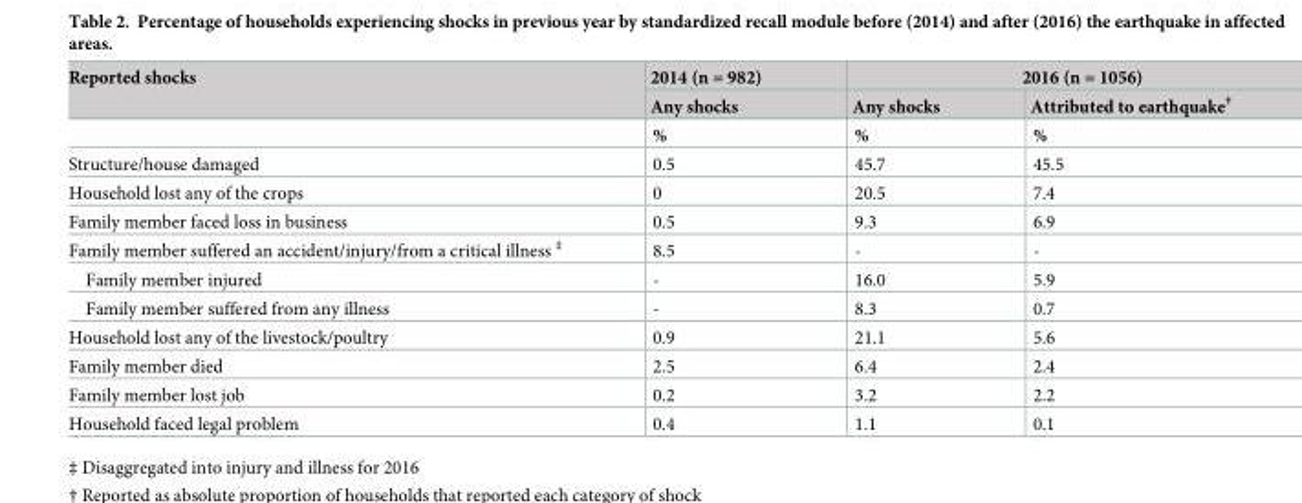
<table><thead><tr><td rowspan="3">Reported shocks</td><td rowspan="3">2014 (n = 982) Any shocks %</td><td colspan="2">2016 (n = 1056)</td></tr><tr><td rowspan="2">Any shocks %</td><td rowspan="2">Attributed to earthquake<sup>†</sup> %</td></tr><tr></tr></thead><tbody><tr><td>Structure/house damaged</td><td>0.5</td><td>45.7</td><td>45.5</td></tr><tr><td>Household lost any of the crops</td><td>0</td><td>20.5</td><td>7.4</td></tr><tr><td>Family member faced loss in business</td><td>0.5</td><td>9.3</td><td>6.9</td></tr><tr><td>Family member suffered an accident/injury/from a critical illness <sup>‡</sup></td><td>8.5</td><td>-</td><td>-</td></tr><tr><td>Family member injured</td><td>-</td><td>16.0</td><td>5.9</td></tr><tr><td>Family member suffered from any illness</td><td>-</td><td>8.3</td><td>0.7</td></tr><tr><td>Household lost any of the livestock/poultry</td><td>0.9</td><td>21.1</td><td>5.6</td></tr><tr><td>Family member died</td><td>2.5</td><td>6.4</td><td>2.4</td></tr><tr><td>Family member lost job</td><td>0.2</td><td>3.2</td><td>2.2</td></tr><tr><td>Household faced legal problem</td><td>0.4</td><td>1.1</td><td>0.1</td></tr></tbody></table>